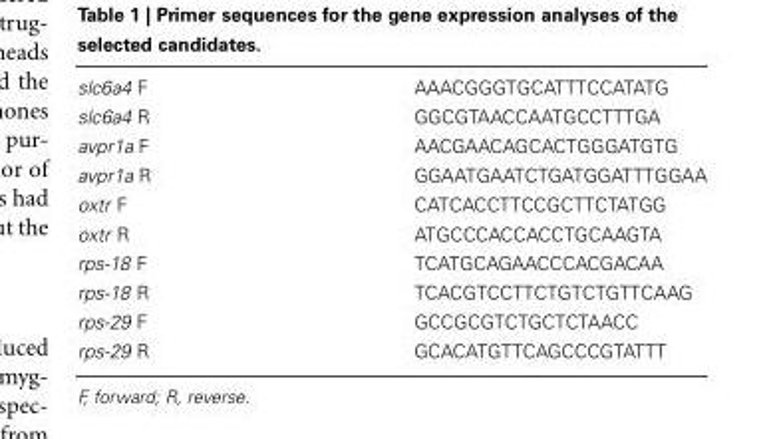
<table><tbody><tr><td>slc6a4 F</td><td>AAACGGGTGCATTTCCATATG</td></tr><tr><td>slc6a4 R</td><td>GGCGTAACCAATGCCTTTGA</td></tr><tr><td>avpr1a F</td><td>AACGAACAGCACTGGGATGTG</td></tr><tr><td>avpr1a R</td><td>GGAATGAATCTGATGGATTTGGAA</td></tr><tr><td>oxtr F</td><td>CATCACCTTCCGCTTCTATGG</td></tr><tr><td>oxtr R</td><td>ATGCCCACCACCTGCAAGTA</td></tr><tr><td>rps-18 F</td><td>TCATGCAGAACCCACGACAA</td></tr><tr><td>rps-18 R</td><td>TCACGTCCTTCTGTCTGTTCAAG</td></tr><tr><td>rps-29 F</td><td>GCCGCGTCTGCTCTAACC</td></tr><tr><td>rps-29 R</td><td>GCACATGTTCAGCCCGTATTT</td></tr></tbody></table>